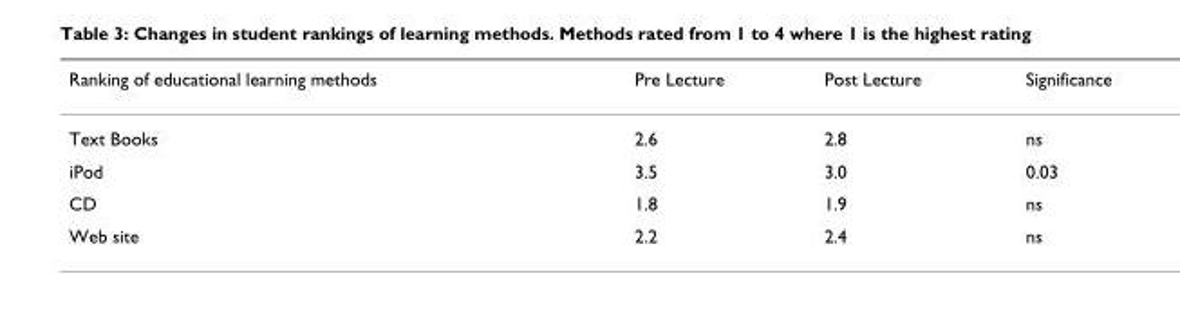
<table><thead><tr><td>Ranking of educational learning methods</td><td>Pre Lecture</td><td>Post Lecture</td><td>Significance</td></tr></thead><tbody><tr><td>Text Books</td><td>2.6</td><td>2.8</td><td>ns</td></tr><tr><td>iPod</td><td>3.5</td><td>3.0</td><td>0.03</td></tr><tr><td>CD</td><td>1.8</td><td>1.9</td><td>ns</td></tr><tr><td>Web site</td><td>2.2</td><td>2.4</td><td>ns</td></tr></tbody></table>